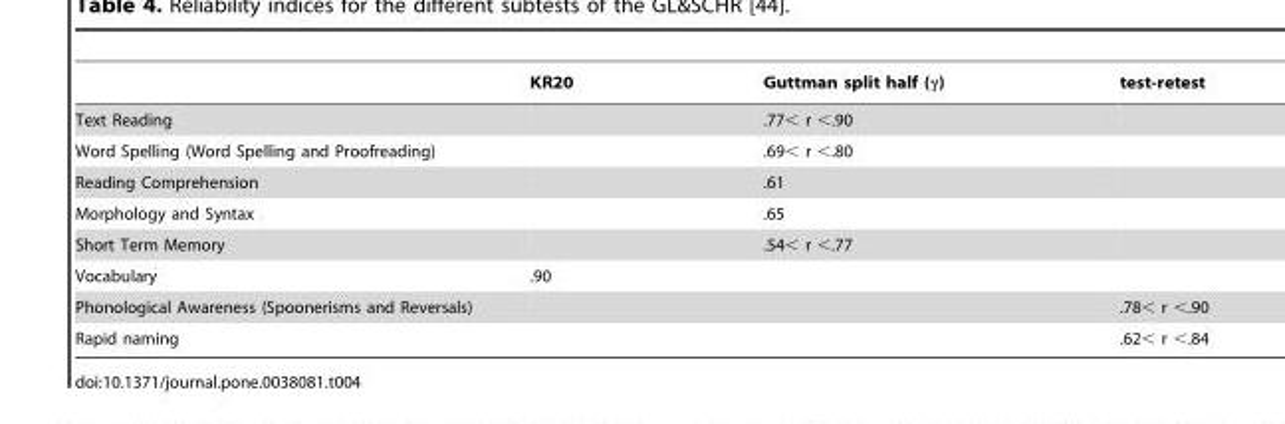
<table><thead><tr><td></td><td>KR20</td><td>Guttman split half (γ)</td><td>test-retest</td></tr></thead><tbody><tr><td>Text Reading</td><td></td><td>.77&lt; r &lt;.90</td><td></td></tr><tr><td>Word Spelling (Word Spelling and Proofreading)</td><td></td><td>.69&lt; r &lt;.80</td><td></td></tr><tr><td>Reading Comprehension</td><td></td><td>.61</td><td></td></tr><tr><td>Morphology and Syntax</td><td></td><td>.65</td><td></td></tr><tr><td>Short Term Memory</td><td></td><td>.54&lt; r &lt;.77</td><td></td></tr><tr><td>Vocabulary</td><td>.90</td><td></td><td></td></tr><tr><td>Phonological Awareness (Spoonerisms and Reversals)</td><td></td><td></td><td>.78&lt; r &lt;.90</td></tr><tr><td>Rapid naming</td><td></td><td></td><td>.62&lt; r &lt;.84</td></tr></tbody></table>